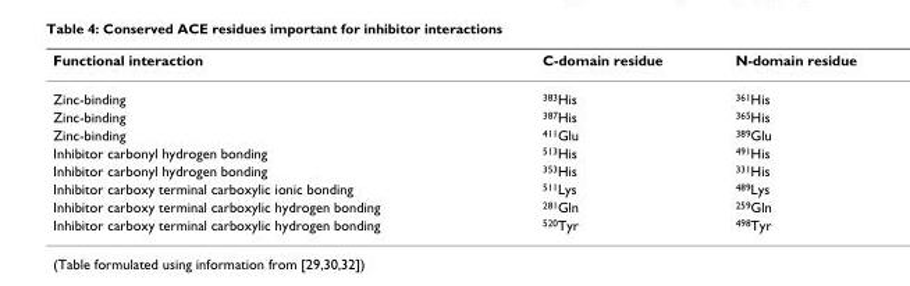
<table><thead><tr><td>Functional interaction</td><td>C-domain residue</td><td>N-domain residue</td></tr></thead><tbody><tr><td>Zinc-binding</td><td><sup>383</sup>His</td><td><sup>361</sup>His</td></tr><tr><td>Zinc-binding</td><td><sup>387</sup>His</td><td><sup>365</sup>His</td></tr><tr><td>Zinc-binding</td><td><sup>411</sup>Glu</td><td><sup>389</sup>Glu</td></tr><tr><td>Inhibitor carbonyl hydrogen bonding</td><td><sup>513</sup>His</td><td><sup>491</sup>His</td></tr><tr><td>Inhibitor carbonyl hydrogen bonding</td><td><sup>353</sup>His</td><td><sup>331</sup>His</td></tr><tr><td>Inhibitor carboxy terminal carboxylic ionic bonding</td><td><sup>511</sup>Lys</td><td><sup>489</sup>Lys</td></tr><tr><td>Inhibitor carboxy terminal carboxylic hydrogen bonding</td><td><sup>281</sup>Gln</td><td><sup>259</sup>Gln</td></tr><tr><td>Inhibitor carboxy terminal carboxylic hydrogen bonding</td><td><sup>520</sup>Tyr</td><td><sup>498</sup>Tyr</td></tr></tbody></table>